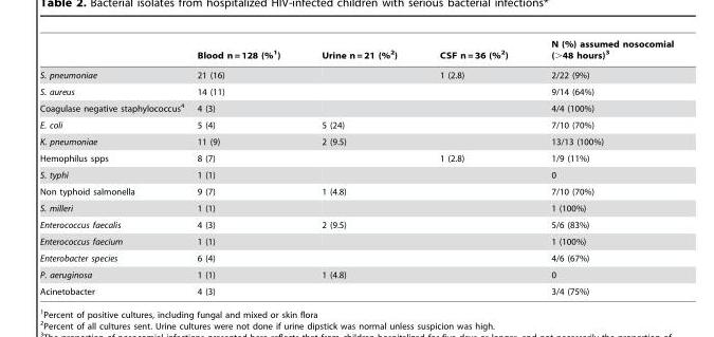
<table><thead><tr><td></td><td>Blood n = 128 (%<sup>1</sup>)</td><td>Urine n = 21 (%<sup>2</sup>)</td><td>CSF n = 36 (%<sup>2</sup>)</td><td>N (%) assumed nosocomial (&gt;48 hours)<sup>3</sup></td></tr></thead><tbody><tr><td>S. pneumoniae</td><td>21 (16)</td><td></td><td>1 (2.8)</td><td>2/22 (9%)</td></tr><tr><td>S. aureus</td><td>14 (11)</td><td></td><td></td><td>9/14 (64%)</td></tr><tr><td>Coagulase negative staphylococcus<sup>4</sup></td><td>4 (3)</td><td></td><td></td><td>4/4 (100%)</td></tr><tr><td>E. coli</td><td>5 (4)</td><td>5 (24)</td><td></td><td>7/10 (70%)</td></tr><tr><td>K. pneumoniae</td><td>11 (9)</td><td>2 (9.5)</td><td></td><td>13/13 (100%)</td></tr><tr><td>Hemophilus spps</td><td>8 (7)</td><td></td><td>1 (2.8)</td><td>1/9 (11%)</td></tr><tr><td>S. typhi</td><td>1 (1)</td><td></td><td></td><td>0</td></tr><tr><td>Non typhoid salmonella</td><td>9 (7)</td><td>1 (4.8)</td><td></td><td>7/10 (70%)</td></tr><tr><td>S. milleri</td><td>1 (1)</td><td></td><td></td><td>1 (100%)</td></tr><tr><td>Enterococcus faecalis</td><td>4 (3)</td><td>2 (9.5)</td><td></td><td>5/6 (83%)</td></tr><tr><td>Enterococcus faecium</td><td>1 (1)</td><td></td><td></td><td>1 (100%)</td></tr><tr><td>Enterobacter species</td><td>6 (4)</td><td></td><td></td><td>4/6 (67%)</td></tr><tr><td>P. aeruginosa</td><td>1 (1)</td><td>1 (4.8)</td><td></td><td>0</td></tr><tr><td>Acinetobacter</td><td>4 (3)</td><td></td><td></td><td>3/4 (75%)</td></tr></tbody></table>